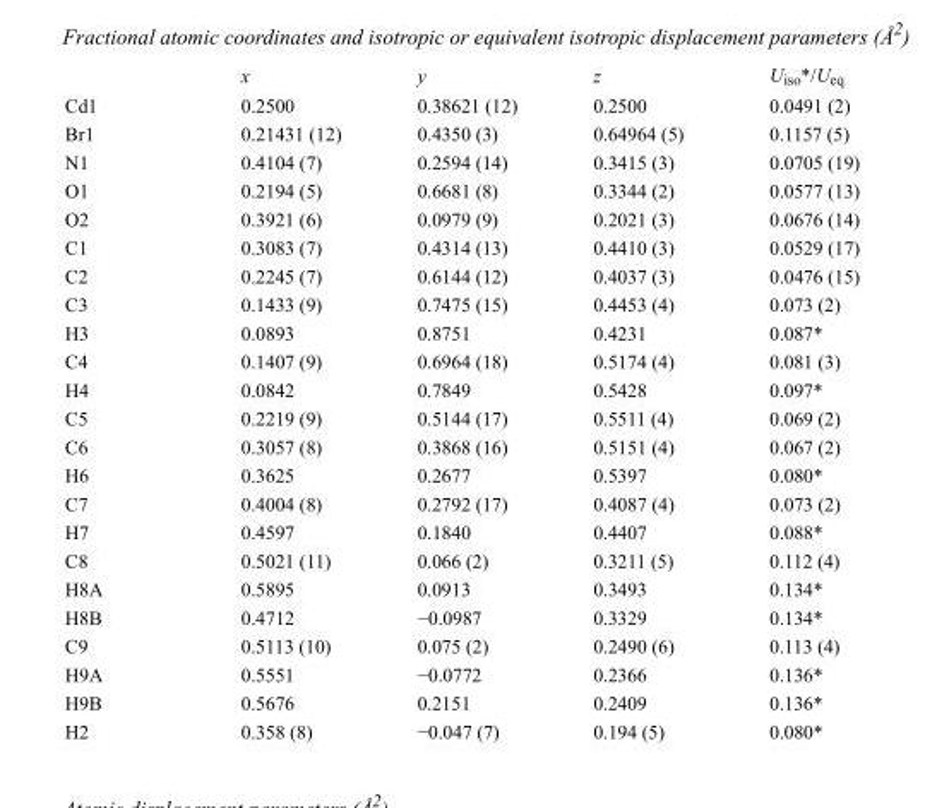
<table><thead><tr><td></td><td>x</td><td>y</td><td>z</td><td>U<sub>iso</sub>*/U<sub>eq</sub></td></tr></thead><tbody><tr><td>Cd1</td><td>0.2500</td><td>0.38621 (12)</td><td>0.2500</td><td>0.0491 (2)</td></tr><tr><td>Br1</td><td>0.21431 (12)</td><td>0.4350 (3)</td><td>0.64964 (5)</td><td>0.1157 (5)</td></tr><tr><td>N1</td><td>0.4104 (7)</td><td>0.2594 (14)</td><td>0.3415 (3)</td><td>0.0705 (19)</td></tr><tr><td>O1</td><td>0.2194 (5)</td><td>0.6681 (8)</td><td>0.3344 (2)</td><td>0.0577 (13)</td></tr><tr><td>O2</td><td>0.3921 (6)</td><td>0.0979 (9)</td><td>0.2021 (3)</td><td>0.0676 (14)</td></tr><tr><td>C1</td><td>0.3083 (7)</td><td>0.4314 (13)</td><td>0.4410 (3)</td><td>0.0529 (17)</td></tr><tr><td>C2</td><td>0.2245 (7)</td><td>0.6144 (12)</td><td>0.4037 (3)</td><td>0.0476 (15)</td></tr><tr><td>C3</td><td>0.1433 (9)</td><td>0.7475 (15)</td><td>0.4453 (4)</td><td>0.073 (2)</td></tr><tr><td>H3</td><td>0.0893</td><td>0.8751</td><td>0.4231</td><td>0.087*</td></tr><tr><td>C4</td><td>0.1407 (9)</td><td>0.6964 (18)</td><td>0.5174 (4)</td><td>0.081 (3)</td></tr><tr><td>H4</td><td>0.0842</td><td>0.7849</td><td>0.5428</td><td>0.097*</td></tr><tr><td>C5</td><td>0.2219 (9)</td><td>0.5144 (17)</td><td>0.5511 (4)</td><td>0.069 (2)</td></tr><tr><td>C6</td><td>0.3057 (8)</td><td>0.3868 (16)</td><td>0.5151 (4)</td><td>0.067 (2)</td></tr><tr><td>H6</td><td>0.3625</td><td>0.2677</td><td>0.5397</td><td>0.080*</td></tr><tr><td>C7</td><td>0.4004 (8)</td><td>0.2792 (17)</td><td>0.4087 (4)</td><td>0.073 (2)</td></tr><tr><td>H7</td><td>0.4597</td><td>0.1840</td><td>0.4407</td><td>0.088*</td></tr><tr><td>C8</td><td>0.5021 (11)</td><td>0.066 (2)</td><td>0.3211 (5)</td><td>0.112 (4)</td></tr><tr><td>H8A</td><td>0.5895</td><td>0.0913</td><td>0.3493</td><td>0.134*</td></tr><tr><td>H8B</td><td>0.4712</td><td>−0.0987</td><td>0.3329</td><td>0.134*</td></tr><tr><td>C9</td><td>0.5113 (10)</td><td>0.075 (2)</td><td>0.2490 (6)</td><td>0.113 (4)</td></tr><tr><td>H9A</td><td>0.5551</td><td>−0.0772</td><td>0.2366</td><td>0.136*</td></tr><tr><td>H9B</td><td>0.5676</td><td>0.2151</td><td>0.2409</td><td>0.136*</td></tr><tr><td>H2</td><td>0.358 (8)</td><td>−0.047 (7)</td><td>0.194 (5)</td><td>0.080*</td></tr></tbody></table>